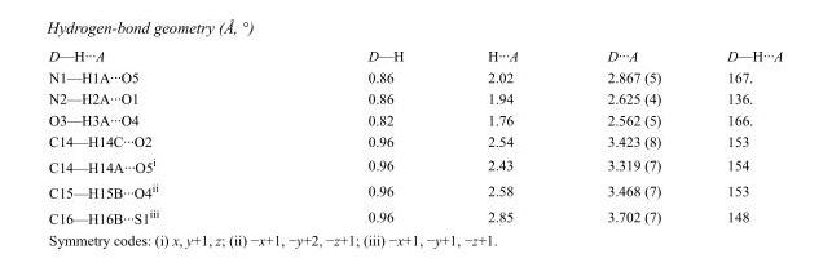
<table><tbody><tr><td>D—H···A</td><td>D—H</td><td>H···A</td><td>D···A</td><td>D—H···A</td></tr><tr><td>N1—H1A···O5</td><td>0.86</td><td>2.02</td><td>2.867 (5)</td><td>167.</td></tr><tr><td>N2—H2A···O1</td><td>0.86</td><td>1.94</td><td>2.625 (4)</td><td>136.</td></tr><tr><td>O3—H3A···O4</td><td>0.82</td><td>1.76</td><td>2.562 (5)</td><td>166.</td></tr><tr><td>C14—H14C···O2</td><td>0.96</td><td>2.54</td><td>3.423 (8)</td><td>153</td></tr><tr><td>C14—H14A···O5<sup>i</sup></td><td>0.96</td><td>2.43</td><td>3.319 (7)</td><td>154</td></tr><tr><td>C15—H15B···O4<sup>ii</sup></td><td>0.96</td><td>2.58</td><td>3.468 (7)</td><td>153</td></tr><tr><td>C16—H16B···S1<sup>iii</sup></td><td>0.96</td><td>2.85</td><td>3.702 (7)</td><td>148</td></tr></tbody></table>